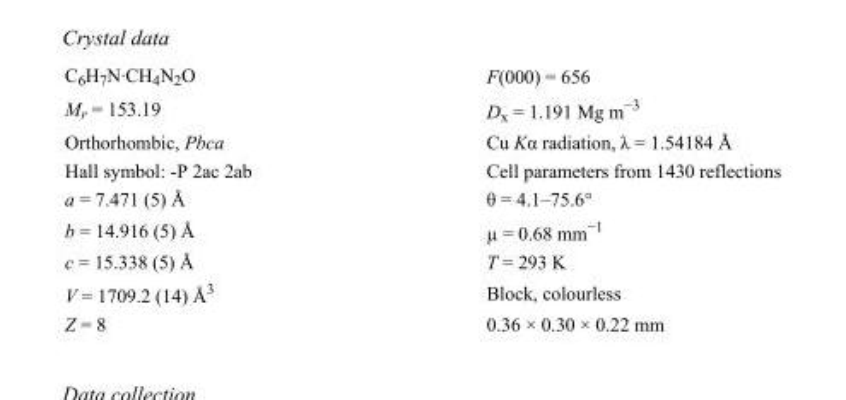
<table><tbody><tr><td>C<sub>6</sub>H<sub>7</sub>N·CH<sub>4</sub>N<sub>2</sub>O</td><td>F(000) = 656</td></tr><tr><td>M<sub>r</sub> = 153.19</td><td>D<sub>x</sub> = 1.191 Mg m<sup>−3</sup></td></tr><tr><td>Orthorhombic, Pbca</td><td>Cu Kα radiation, λ = 1.54184 Å</td></tr><tr><td>Hall symbol: -P 2ac 2ab</td><td>Cell parameters from 1430 reflections</td></tr><tr><td>a = 7.471 (5) Å</td><td>θ = 4.1–75.6°</td></tr><tr><td>b = 14.916 (5) Å</td><td>µ = 0.68 mm<sup>−1</sup></td></tr><tr><td>c = 15.338 (5) Å</td><td>T = 293 K</td></tr><tr><td>V = 1709.2 (14) Å<sup>3</sup></td><td>Block, colourless</td></tr><tr><td>Z = 8</td><td>0.36 × 0.30 × 0.22 mm</td></tr></tbody></table>